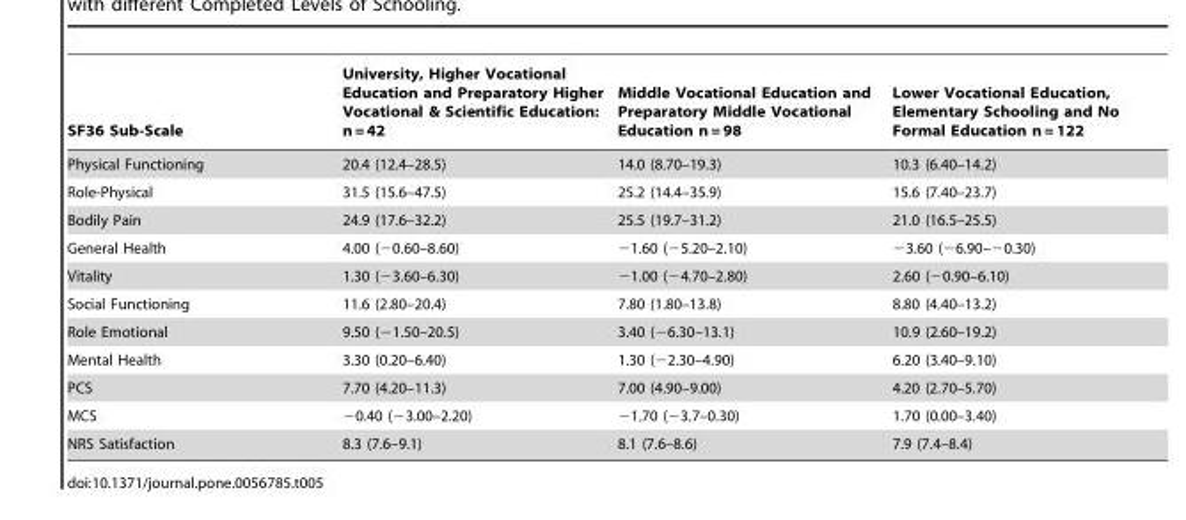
<table><thead><tr><td>SF36 Sub-Scale</td><td>University, Higher Vocational Education and Preparatory Higher Vocational &amp; Scientific Education: n = 42</td><td>Middle Vocational Education and Preparatory Middle Vocational Education n = 98</td><td>Lower Vocational Education, Elementary Schooling and No Formal Education n = 122</td></tr></thead><tbody><tr><td>Physical Functioning</td><td>20.4 (12.4–28.5)</td><td>14.0 (8.70–19.3)</td><td>10.3 (6.40–14.2)</td></tr><tr><td>Role-Physical</td><td>31.5 (15.6–47.5)</td><td>25.2 (14.4–35.9)</td><td>15.6 (7.40–23.7)</td></tr><tr><td>Bodily Pain</td><td>24.9 (17.6–32.2)</td><td>25.5 (19.7–31.2)</td><td>21.0 (16.5–25.5)</td></tr><tr><td>General Health</td><td>4.00 (−0.60–8.60)</td><td>−1.60 (−5.20–2.10)</td><td>−3.60 (−6.90–−0.30)</td></tr><tr><td>Vitality</td><td>1.30 (−3.60–6.30)</td><td>−1.00 (−4.70–2.80)</td><td>2.60 (−0.90–6.10)</td></tr><tr><td>Social Functioning</td><td>11.6 (2.80–20.4)</td><td>7.80 (1.80–13.8)</td><td>8.80 (4.40–13.2)</td></tr><tr><td>Role Emotional</td><td>9.50 (−1.50–20.5)</td><td>3.40 (−6.30–13.1)</td><td>10.9 (2.60–19.2)</td></tr><tr><td>Mental Health</td><td>3.30 (0.20–6.40)</td><td>1.30 (−2.30–4.90)</td><td>6.20 (3.40–9.10)</td></tr><tr><td>PCS</td><td>7.70 (4.20–11.3)</td><td>7.00 (4.90–9.00)</td><td>4.20 (2.70–5.70)</td></tr><tr><td>MCS</td><td>−0.40 (−3.00–2.20)</td><td>−1.70 (−3.7–0.30)</td><td>1.70 (0.00–3.40)</td></tr><tr><td>NRS Satisfaction</td><td>8.3 (7.6–9.1)</td><td>8.1 (7.6–8.6)</td><td>7.9 (7.4–8.4)</td></tr></tbody></table>